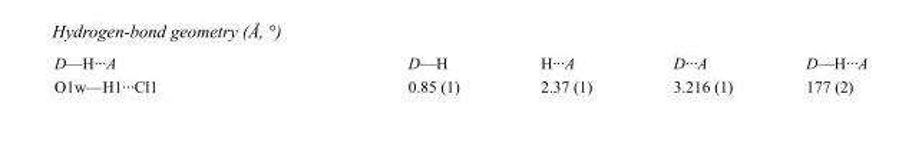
<table><tbody><tr><td>D—H···A</td><td>D—H</td><td>H···A</td><td>D···A</td><td>D—H···A</td></tr><tr><td>O1w—H1···Cl1</td><td>0.85 (1)</td><td>2.37 (1)</td><td>3.216 (1)</td><td>177 (2)</td></tr></tbody></table>